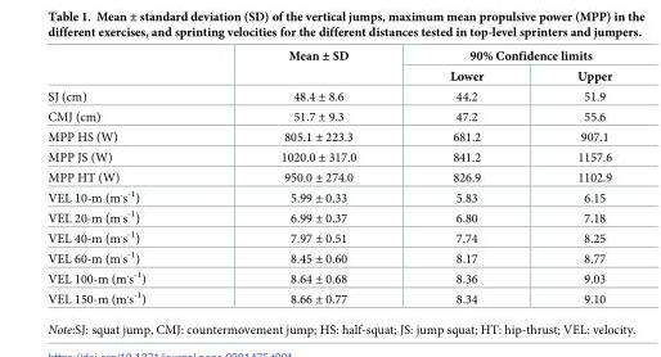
<table><thead><tr><td rowspan="2"></td><td rowspan="2">Mean ± SD</td><td colspan="2">90% Confidence limits</td></tr><tr><td>Lower</td><td>Upper</td></tr></thead><tbody><tr><td>SJ (cm)</td><td>48.4 ± 8.6</td><td>44.2</td><td>51.9</td></tr><tr><td>CMJ (cm)</td><td>51.7 ± 9.3</td><td>47.2</td><td>55.6</td></tr><tr><td>MPP HS (W)</td><td>805.1 ± 223.3</td><td>681.2</td><td>907.1</td></tr><tr><td>MPP JS (W)</td><td>1020.0 ± 317.0</td><td>841.2</td><td>1157.6</td></tr><tr><td>MPP HT (W)</td><td>950.0 ± 274.0</td><td>826.9</td><td>1102.9</td></tr><tr><td>VEL 10-m (m<sup>.</sup>s<sup>-1</sup>)</td><td>5.99 ± 0.33</td><td>5.83</td><td>6.15</td></tr><tr><td>VEL 20-m (m<sup>.</sup>s<sup>-1</sup>)</td><td>6.99 ± 0.37</td><td>6.80</td><td>7.18</td></tr><tr><td>VEL 40-m (m<sup>.</sup>s<sup>-1</sup>)</td><td>7.97 ± 0.51</td><td>7.74</td><td>8.25</td></tr><tr><td>VEL 60-m (m<sup>.</sup>s<sup>-1</sup>)</td><td>8.45 ± 0.60</td><td>8.17</td><td>8.77</td></tr><tr><td>VEL 100-m (m<sup>.</sup>s<sup>-1</sup>)</td><td>8.64 ± 0.68</td><td>8.36</td><td>9.03</td></tr><tr><td>VEL 150-m (m<sup>.</sup>s<sup>-1</sup>)</td><td>8.66 ± 0.77</td><td>8.34</td><td>9.10</td></tr></tbody></table>